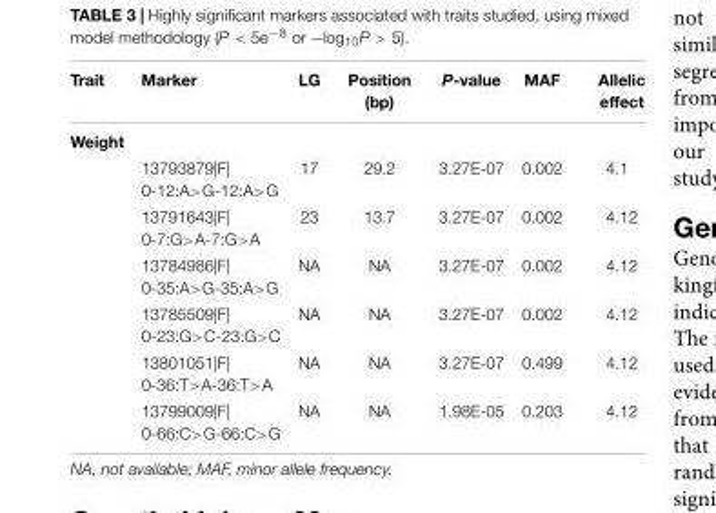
<table><thead><tr><td>Trait</td><td>Marker</td><td>LG</td><td>Position (bp)</td><td>P-value</td><td>MAF</td><td>Allelic effect</td></tr></thead><tbody><tr><td colspan="7">Weight</td></tr><tr><td></td><td>13793879|F| 0-12:A&gt;G-12:A&gt;G</td><td>17</td><td>29.2</td><td>3.27E-07</td><td>0.002</td><td>4.1</td></tr><tr><td></td><td>13791643|F| 0-7:G&gt;A-7:G&gt;A</td><td>23</td><td>13.7</td><td>3.27E-07</td><td>0.002</td><td>4.12</td></tr><tr><td></td><td>13784986|F| 0-35:A&gt;G-35:A&gt;G</td><td>NA</td><td>NA</td><td>3.27E-07</td><td>0.002</td><td>4.12</td></tr><tr><td></td><td>13785509|F| 0-23:G&gt;C-23:G&gt;C</td><td>NA</td><td>NA</td><td>3.27E-07</td><td>0.002</td><td>4.12</td></tr><tr><td></td><td>13801051|F| 0-36:T&gt;A-36:T&gt;A</td><td>NA</td><td>NA</td><td>3.27E-07</td><td>0.499</td><td>4.12</td></tr><tr><td></td><td>13799009|F| 0-66:C&gt;G-66:C&gt;G</td><td>NA</td><td>NA</td><td>1.98E-05</td><td>0.203</td><td>4.12</td></tr></tbody></table>